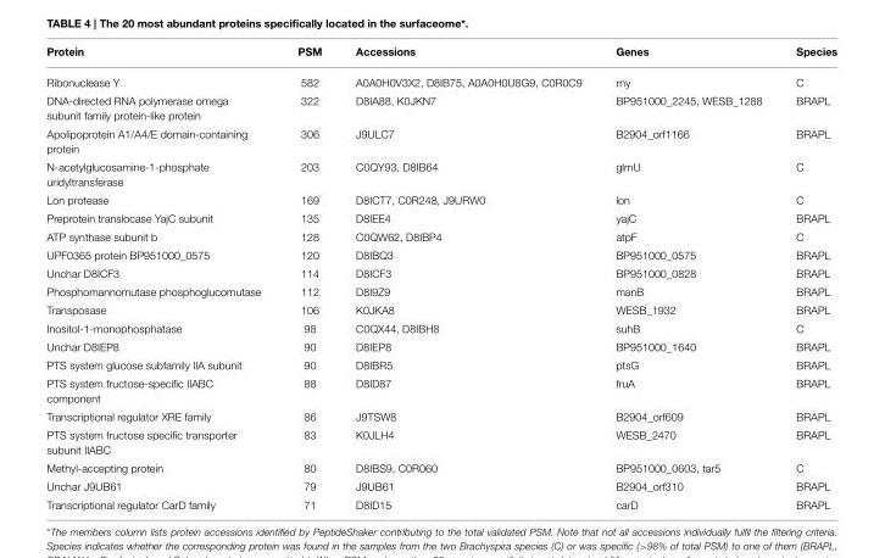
<table><thead><tr><td>Protein</td><td>PSM</td><td>Accessions</td><td>Genes</td><td>Species</td></tr></thead><tbody><tr><td>Ribonuclease Y</td><td>582</td><td>A0A0H0V3X2, D8IB75, A0A0H0U8G9, C0R0C9</td><td>rny</td><td>C</td></tr><tr><td>DNA-directed RNA polymerase omega subunit family protein-like protein</td><td>322</td><td>D8IA88, K0JKN7</td><td>BP951000_2245, WESB_1288</td><td>BRAPL</td></tr><tr><td>Apolipoprotein A1/A4/E domain-containing protein</td><td>306</td><td>J9ULC7</td><td>B2904_orf1166</td><td>BRAPL</td></tr><tr><td>N-acetylglucosamine-1-phosphate uridyltransferase</td><td>203</td><td>C0QY93, D8IB64</td><td>glmU</td><td>C</td></tr><tr><td>Lon protease</td><td>169</td><td>D8ICT7, C0R248, J9URW0</td><td>lon</td><td>C</td></tr><tr><td>Preprotein translocase YajC subunit</td><td>135</td><td>D8IEE4</td><td>yajC</td><td>BRAPL</td></tr><tr><td>ATP synthase subunit b</td><td>128</td><td>C0QW62, D8IBP4</td><td>atpF</td><td>C</td></tr><tr><td>UPF0365 protein BP951000_0575</td><td>120</td><td>D8IBQ3</td><td>BP951000_0575</td><td>BRAPL</td></tr><tr><td>Unchar D8ICF3</td><td>114</td><td>D8ICF3</td><td>BP951000_0828</td><td>BRAPL</td></tr><tr><td>Phosphomannomutase phosphoglucomutase</td><td>112</td><td>D8I9Z9</td><td>manB</td><td>BRAPL</td></tr><tr><td>Transposase</td><td>106</td><td>K0JKA8</td><td>WESB_1932</td><td>BRAPL</td></tr><tr><td>Inositol-1-monophosphatase</td><td>98</td><td>C0QX44, D8IBH8</td><td>suhB</td><td>C</td></tr><tr><td>Unchar D8IEP8</td><td>90</td><td>D8IEP8</td><td>BP951000_1640</td><td>BRAPL</td></tr><tr><td>PTS system glucose subfamily IIA subunit</td><td>90</td><td>D8IBR5</td><td>ptsG</td><td>BRAPL</td></tr><tr><td>PTS system fructose-specific IIABC component</td><td>88</td><td>D8ID87</td><td>fruA</td><td>BRAPL</td></tr><tr><td>Transcriptional regulator XRE family</td><td>86</td><td>J9TSW8</td><td>B2904_orf609</td><td>BRAPL</td></tr><tr><td>PTS system fructose specific transporter subunit IIABC</td><td>83</td><td>K0JLH4</td><td>WESB_2470</td><td>BRAPL</td></tr><tr><td>Methyl-accepting protein</td><td>80</td><td>D8IBS9, C0R060</td><td>BP951000_0603, tar5</td><td>C</td></tr><tr><td>Unchar J9UB61</td><td>79</td><td>J9UB61</td><td>B2904_orf310</td><td>BRAPL</td></tr><tr><td>Transcriptional regulator CarD family</td><td>71</td><td>D8ID15</td><td>carD</td><td>BRAPL</td></tr></tbody></table>